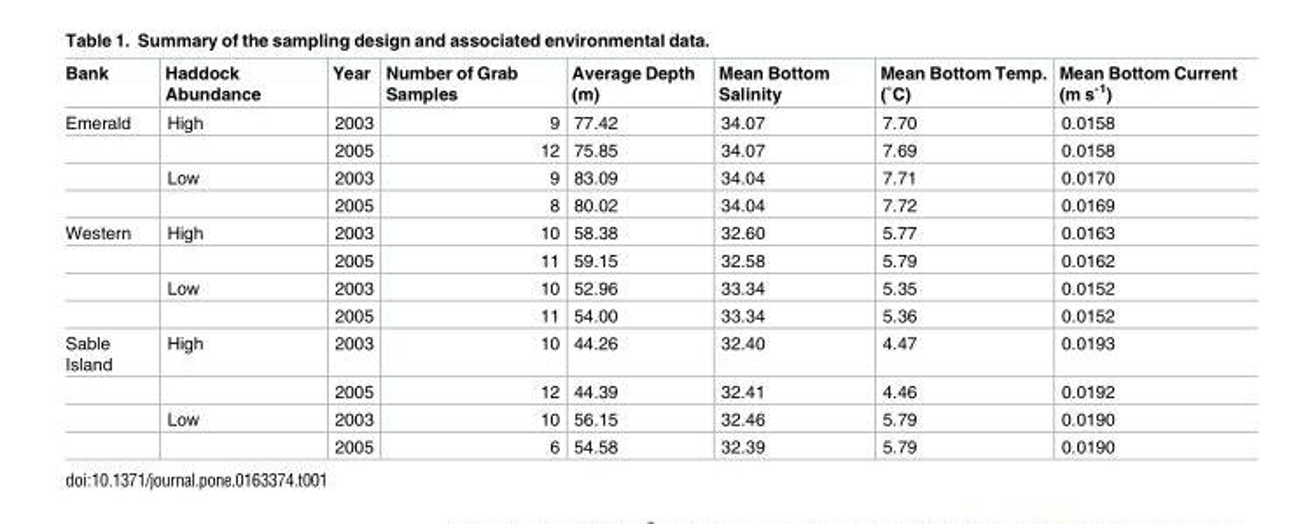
<table><thead><tr><td>Bank</td><td>Haddock Abundance</td><td>Year</td><td>Number of Grab Samples</td><td>Average Depth (m)</td><td>Mean Bottom Salinity</td><td>Mean Bottom Temp. (˚C)</td><td>Mean Bottom Current (m s<sup>-1</sup>)</td></tr></thead><tbody><tr><td rowspan="4">Emerald</td><td>High</td><td>2003</td><td>9</td><td>77.42</td><td>34.07</td><td>7.70</td><td>0.0158</td></tr><tr><td></td><td>2005</td><td>12</td><td>75.85</td><td>34.07</td><td>7.69</td><td>0.0158</td></tr><tr><td>Low</td><td>2003</td><td>9</td><td>83.09</td><td>34.04</td><td>7.71</td><td>0.0170</td></tr><tr><td></td><td>2005</td><td>8</td><td>80.02</td><td>34.04</td><td>7.72</td><td>0.0169</td></tr><tr><td rowspan="4">Western</td><td>High</td><td>2003</td><td>10</td><td>58.38</td><td>32.60</td><td>5.77</td><td>0.0163</td></tr><tr><td></td><td>2005</td><td>11</td><td>59.15</td><td>32.58</td><td>5.79</td><td>0.0162</td></tr><tr><td>Low</td><td>2003</td><td>10</td><td>52.96</td><td>33.34</td><td>5.35</td><td>0.0152</td></tr><tr><td></td><td>2005</td><td>11</td><td>54.00</td><td>33.34</td><td>5.36</td><td>0.0152</td></tr><tr><td rowspan="4">Sable Island</td><td>High</td><td>2003</td><td>10</td><td>44.26</td><td>32.40</td><td>4.47</td><td>0.0193</td></tr><tr><td></td><td>2005</td><td>12</td><td>44.39</td><td>32.41</td><td>4.46</td><td>0.0192</td></tr><tr><td>Low</td><td>2003</td><td>10</td><td>56.15</td><td>32.46</td><td>5.79</td><td>0.0190</td></tr><tr><td></td><td>2005</td><td>6</td><td>54.58</td><td>32.39</td><td>5.79</td><td>0.0190</td></tr></tbody></table>